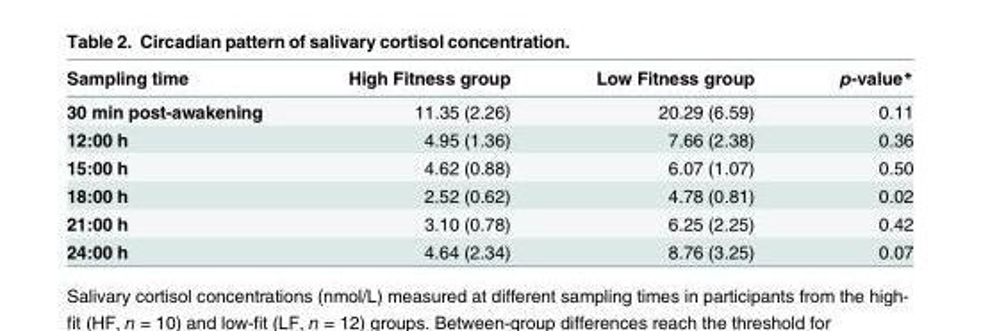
<table><thead><tr><td>Sampling time</td><td>High Fitness group</td><td>Low Fitness group</td><td>p-value*</td></tr></thead><tbody><tr><td>30 min post-awakening</td><td>11.35 (2.26)</td><td>20.29 (6.59)</td><td>0.11</td></tr><tr><td>12:00 h</td><td>4.95 (1.36)</td><td>7.66 (2.38)</td><td>0.36</td></tr><tr><td>15:00 h</td><td>4.62 (0.88)</td><td>6.07 (1.07)</td><td>0.50</td></tr><tr><td>18:00 h</td><td>2.52 (0.62)</td><td>4.78 (0.81)</td><td>0.02</td></tr><tr><td>21:00 h</td><td>3.10 (0.78)</td><td>6.25 (2.25)</td><td>0.42</td></tr><tr><td>24:00 h</td><td>4.64 (2.34)</td><td>8.76 (3.25)</td><td>0.07</td></tr></tbody></table>